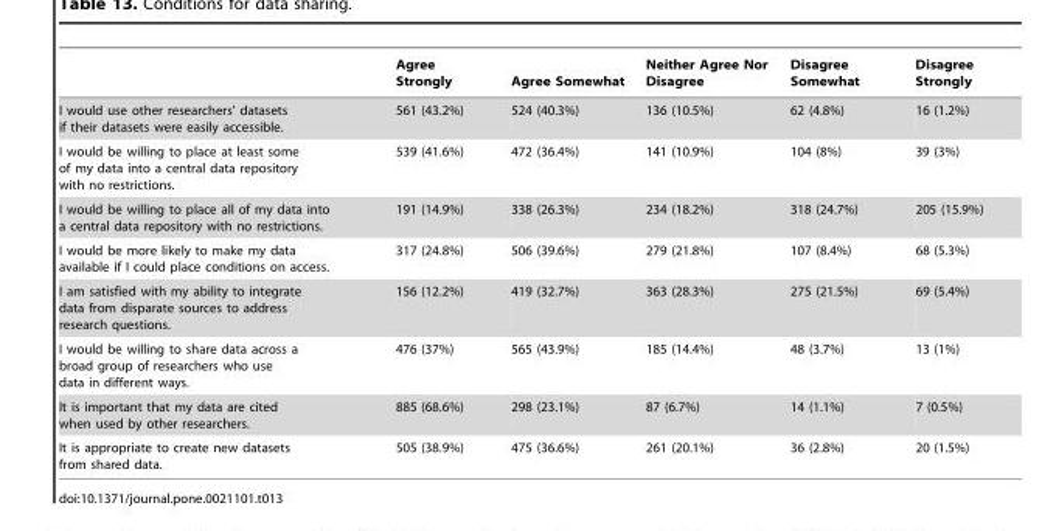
<table><thead><tr><td></td><td>Agree Strongly</td><td>Agree Somewhat</td><td>Neither Agree Nor Disagree</td><td>Disagree Somewhat</td><td>Disagree Strongly</td></tr></thead><tbody><tr><td>I would use other researchers’ datasets if their datasets were easily accessible.</td><td>561 (43.2%)</td><td>524 (40.3%)</td><td>136 (10.5%)</td><td>62 (4.8%)</td><td>16 (1.2%)</td></tr><tr><td>I would be willing to place at least some of my data into a central data repository with no restrictions.</td><td>539 (41.6%)</td><td>472 (36.4%)</td><td>141 (10.9%)</td><td>104 (8%)</td><td>39 (3%)</td></tr><tr><td>I would be willing to place all of my data into a central data repository with no restrictions.</td><td>191 (14.9%)</td><td>338 (26.3%)</td><td>234 (18.2%)</td><td>318 (24.7%)</td><td>205 (15.9%)</td></tr><tr><td>I would be more likely to make my data available if I could place conditions on access.</td><td>317 (24.8%)</td><td>506 (39.6%)</td><td>279 (21.8%)</td><td>107 (8.4%)</td><td>68 (5.3%)</td></tr><tr><td>I am satisfied with my ability to integrate data from disparate sources to address research questions.</td><td>156 (12.2%)</td><td>419 (32.7%)</td><td>363 (28.3%)</td><td>275 (21.5%)</td><td>69 (5.4%)</td></tr><tr><td>I would be willing to share data across a broad group of researchers who use data in different ways.</td><td>476 (37%)</td><td>565 (43.9%)</td><td>185 (14.4%)</td><td>48 (3.7%)</td><td>13 (1%)</td></tr><tr><td>It is important that my data are cited when used by other researchers.</td><td>885 (68.6%)</td><td>298 (23.1%)</td><td>87 (6.7%)</td><td>14 (1.1%)</td><td>7 (0.5%)</td></tr><tr><td>It is appropriate to create new datasets from shared data.</td><td>505 (38.9%)</td><td>475 (36.6%)</td><td>261 (20.1%)</td><td>36 (2.8%)</td><td>20 (1.5%)</td></tr></tbody></table>